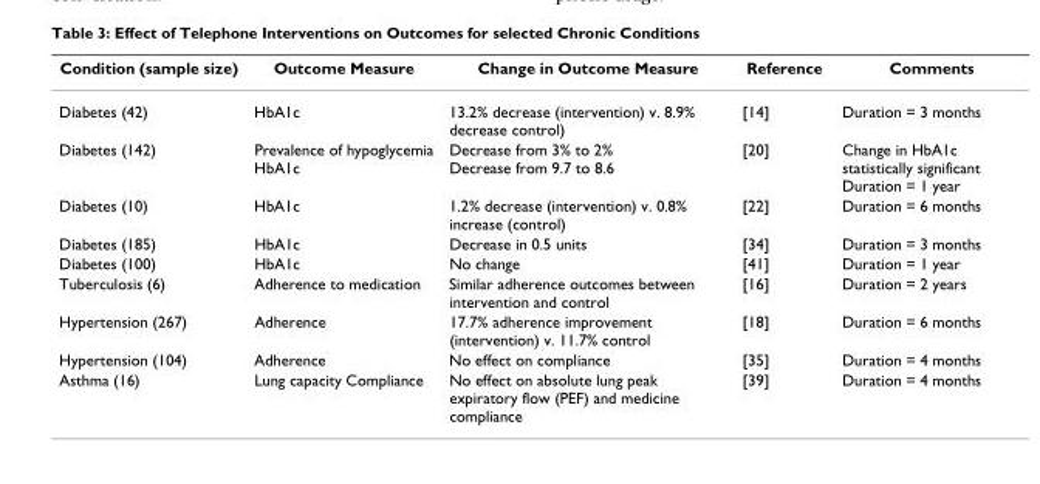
<table><thead><tr><td>Condition (sample size)</td><td>Outcome Measure</td><td>Change in Outcome Measure</td><td>Reference</td><td>Comments</td></tr></thead><tbody><tr><td>Diabetes (42)</td><td>HbA1c</td><td>13.2% decrease (intervention) v. 8.9% decrease control)</td><td>[14]</td><td>Duration = 3 months</td></tr><tr><td>Diabetes (142)</td><td>Prevalence of hypoglycemia HbA1c</td><td>Decrease from 3% to 2% Decrease from 9.7 to 8.6</td><td>[20]</td><td>Change in HbA1c statistically significant Duration = 1 year</td></tr><tr><td>Diabetes (10)</td><td>HbA1c</td><td>1.2% decrease (intervention) v. 0.8% increase (control)</td><td>[22]</td><td>Duration = 6 months</td></tr><tr><td>Diabetes (185)</td><td>HbA1c</td><td>Decrease in 0.5 units</td><td>[34]</td><td>Duration = 3 months</td></tr><tr><td>Diabetes (100)</td><td>HbA1c</td><td>No change</td><td>[41]</td><td>Duration = 1 year</td></tr><tr><td>Tuberculosis (6)</td><td>Adherence to medication</td><td>Similar adherence outcomes between intervention and control</td><td>[16]</td><td>Duration = 2 years</td></tr><tr><td>Hypertension (267)</td><td>Adherence</td><td>17.7% adherence improvement (intervention) v. 11.7% control</td><td>[18]</td><td>Duration = 6 months</td></tr><tr><td>Hypertension (104)</td><td>Adherence</td><td>No effect on compliance</td><td>[35]</td><td>Duration = 4 months</td></tr><tr><td>Asthma (16)</td><td>Lung capacity Compliance</td><td>No effect on absolute lung peak expiratory flow (PEF) and medicine compliance</td><td>[39]</td><td>Duration = 4 months</td></tr></tbody></table>